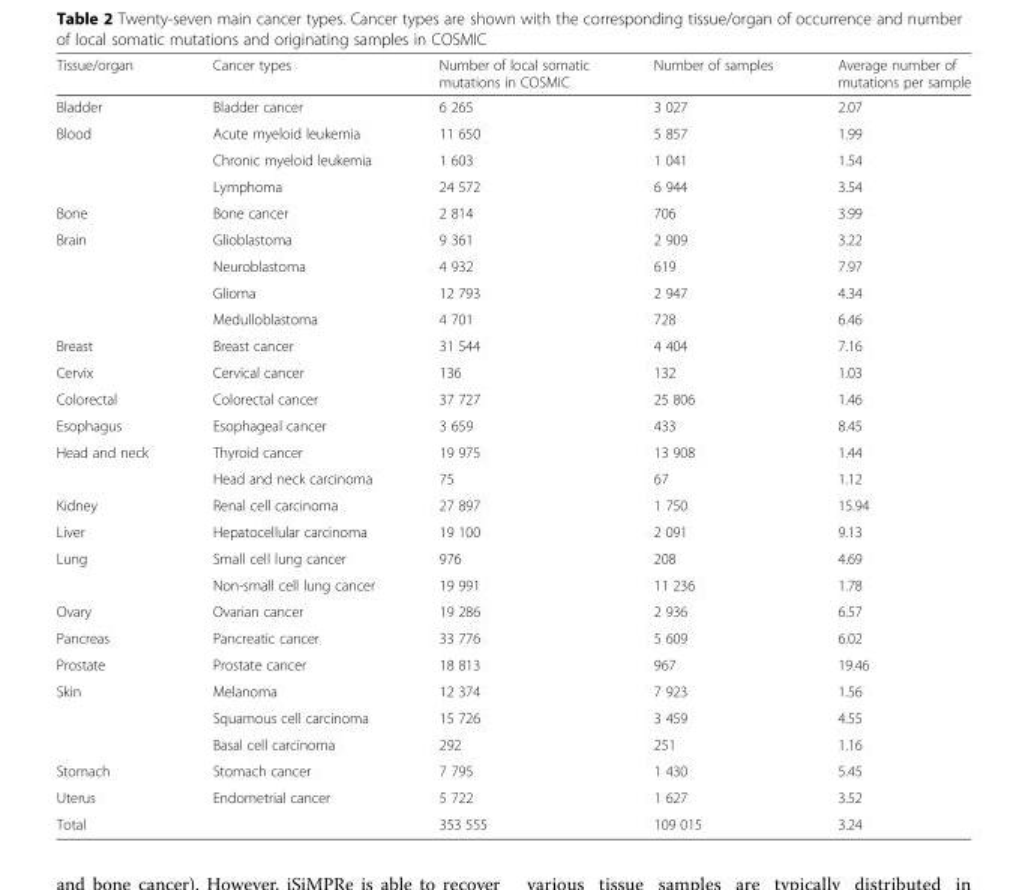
<table><thead><tr><td>Tissue/organ</td><td>Cancer types</td><td>Number of local somatic mutations in COSMIC</td><td>Number of samples</td><td>Average number of mutations per sample</td></tr></thead><tbody><tr><td>Bladder</td><td>Bladder cancer</td><td>6 265</td><td>3 027</td><td>2.07</td></tr><tr><td rowspan="3">Blood</td><td>Acute myeloid leukemia</td><td>11 650</td><td>5 857</td><td>1.99</td></tr><tr><td>Chronic myeloid leukemia</td><td>1 603</td><td>1 041</td><td>1.54</td></tr><tr><td>Lymphoma</td><td>24 572</td><td>6 944</td><td>3.54</td></tr><tr><td>Bone</td><td>Bone cancer</td><td>2 814</td><td>706</td><td>3.99</td></tr><tr><td rowspan="4">Brain</td><td>Glioblastoma</td><td>9 361</td><td>2 909</td><td>3.22</td></tr><tr><td>Neuroblastoma</td><td>4 932</td><td>619</td><td>7.97</td></tr><tr><td>Glioma</td><td>12 793</td><td>2 947</td><td>4.34</td></tr><tr><td>Medulloblastoma</td><td>4 701</td><td>728</td><td>6.46</td></tr><tr><td>Breast</td><td>Breast cancer</td><td>31 544</td><td>4 404</td><td>7.16</td></tr><tr><td>Cervix</td><td>Cervical cancer</td><td>136</td><td>132</td><td>1.03</td></tr><tr><td>Colorectal</td><td>Colorectal cancer</td><td>37 727</td><td>25 806</td><td>1.46</td></tr><tr><td>Esophagus</td><td>Esophageal cancer</td><td>3 659</td><td>433</td><td>8.45</td></tr><tr><td rowspan="2">Head and neck</td><td>Thyroid cancer</td><td>19 975</td><td>13 908</td><td>1.44</td></tr><tr><td>Head and neck carcinoma</td><td>75</td><td>67</td><td>1.12</td></tr><tr><td>Kidney</td><td>Renal cell carcinoma</td><td>27 897</td><td>1 750</td><td>15.94</td></tr><tr><td>Liver</td><td>Hepatocellular carcinoma</td><td>19 100</td><td>2 091</td><td>9.13</td></tr><tr><td rowspan="2">Lung</td><td>Small cell lung cancer</td><td>976</td><td>208</td><td>4.69</td></tr><tr><td>Non-small cell lung cancer</td><td>19 991</td><td>11 236</td><td>1.78</td></tr><tr><td>Ovary</td><td>Ovarian cancer</td><td>19 286</td><td>2 936</td><td>6.57</td></tr><tr><td>Pancreas</td><td>Pancreatic cancer</td><td>33 776</td><td>5 609</td><td>6.02</td></tr><tr><td>Prostate</td><td>Prostate cancer</td><td>18 813</td><td>967</td><td>19.46</td></tr><tr><td rowspan="3">Skin</td><td>Melanoma</td><td>12 374</td><td>7 923</td><td>1.56</td></tr><tr><td>Squamous cell carcinoma</td><td>15 726</td><td>3 459</td><td>4.55</td></tr><tr><td>Basal cell carcinoma</td><td>292</td><td>251</td><td>1.16</td></tr><tr><td>Stomach</td><td>Stomach cancer</td><td>7 795</td><td>1 430</td><td>5.45</td></tr><tr><td>Uterus</td><td>Endometrial cancer</td><td>5 722</td><td>1 627</td><td>3.52</td></tr><tr><td colspan="2">Total</td><td>353 555</td><td>109 015</td><td>3.24</td></tr></tbody></table>